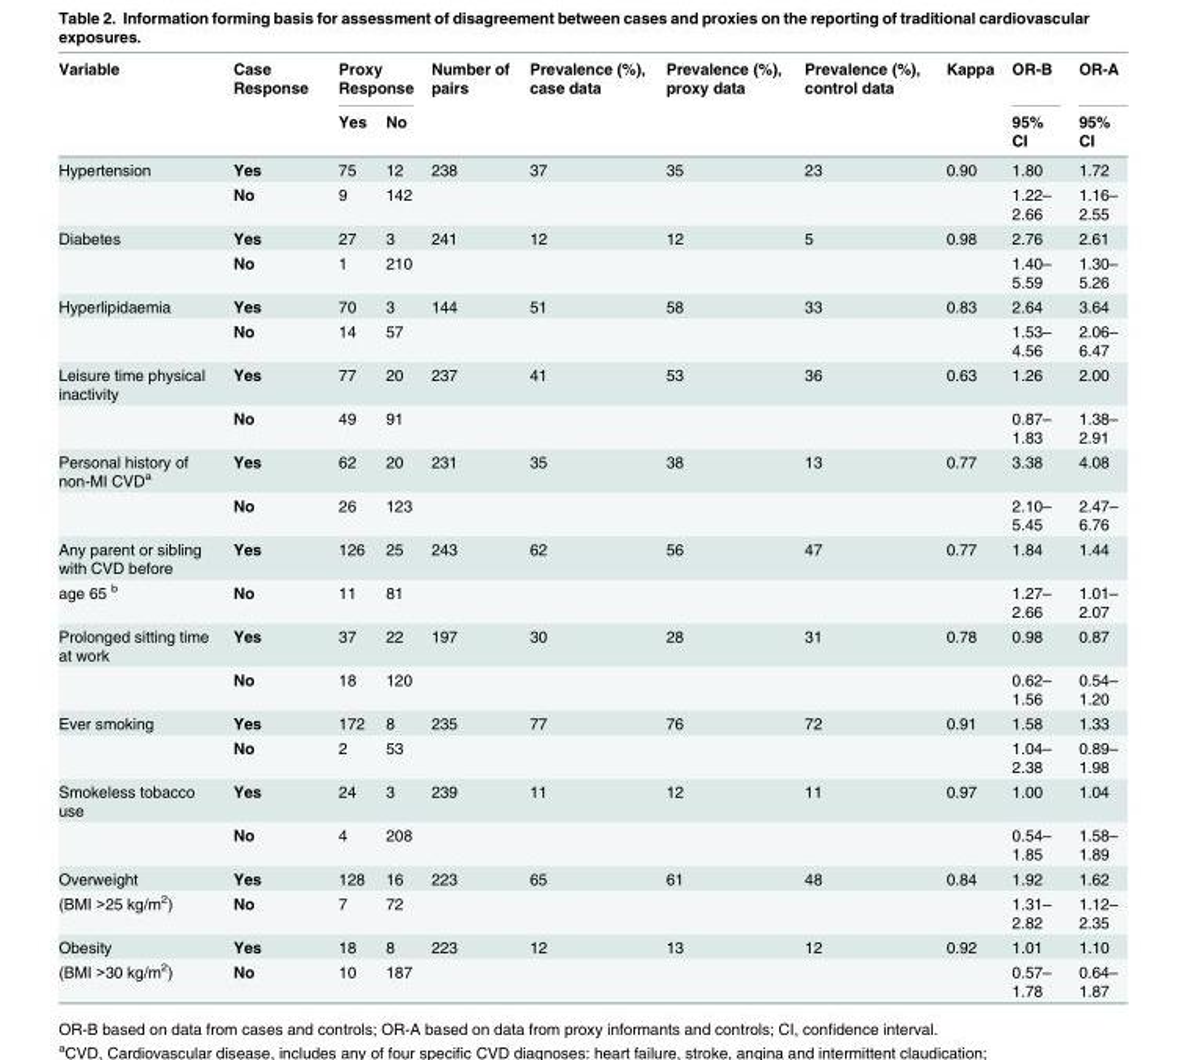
<table><thead><tr><td rowspan="2">Variable</td><td rowspan="2">Case Response</td><td colspan="2">Proxy Response</td><td rowspan="2">Number of pairs</td><td rowspan="2">Prevalence (%), case data</td><td rowspan="2">Prevalence (%), proxy data</td><td rowspan="2">Prevalence (%), control data</td><td rowspan="2">Kappa</td><td rowspan="2">OR-B 95% CI</td><td rowspan="2">OR-A 95% CI</td></tr><tr><td>Yes</td><td>No</td></tr></thead><tbody><tr><td rowspan="2">Hypertension</td><td>Yes</td><td>75</td><td>12</td><td>238</td><td>37</td><td>35</td><td>23</td><td>0.90</td><td>1.80</td><td>1.72</td></tr><tr><td>No</td><td>9</td><td>142</td><td></td><td></td><td></td><td></td><td></td><td>1.22– 2.66</td><td>1.16– 2.55</td></tr><tr><td rowspan="2">Diabetes</td><td>Yes</td><td>27</td><td>3</td><td>241</td><td>12</td><td>12</td><td>5</td><td>0.98</td><td>2.76</td><td>2.61</td></tr><tr><td>No</td><td>1</td><td>210</td><td></td><td></td><td></td><td></td><td></td><td>1.40– 5.59</td><td>1.30– 5.26</td></tr><tr><td rowspan="2">Hyperlipidaemia</td><td>Yes</td><td>70</td><td>3</td><td>144</td><td>51</td><td>58</td><td>33</td><td>0.83</td><td>2.64</td><td>3.64</td></tr><tr><td>No</td><td>14</td><td>57</td><td></td><td></td><td></td><td></td><td></td><td>1.53– 4.56</td><td>2.06– 6.47</td></tr><tr><td rowspan="2">Leisure time physical inactivity</td><td>Yes</td><td>77</td><td>20</td><td>237</td><td>41</td><td>53</td><td>36</td><td>0.63</td><td>1.26</td><td>2.00</td></tr><tr><td>No</td><td>49</td><td>91</td><td></td><td></td><td></td><td></td><td></td><td>0.87– 1.83</td><td>1.38– 2.91</td></tr><tr><td rowspan="2">Personal history of non-MI CVD<sup>a</sup></td><td>Yes</td><td>62</td><td>20</td><td>231</td><td>35</td><td>38</td><td>13</td><td>0.77</td><td>3.38</td><td>4.08</td></tr><tr><td>No</td><td>26</td><td>123</td><td></td><td></td><td></td><td></td><td></td><td>2.10– 5.45</td><td>2.47– 6.76</td></tr><tr><td>Any parent or sibling with CVD before</td><td>Yes</td><td>126</td><td>25</td><td>243</td><td>62</td><td>56</td><td>47</td><td>0.77</td><td>1.84</td><td>1.44</td></tr><tr><td>age 65 <sup>b</sup></td><td>No</td><td>11</td><td>81</td><td></td><td></td><td></td><td></td><td></td><td>1.27– 2.66</td><td>1.01– 2.07</td></tr><tr><td rowspan="2">Prolonged sitting time at work</td><td>Yes</td><td>37</td><td>22</td><td>197</td><td>30</td><td>28</td><td>31</td><td>0.78</td><td>0.98</td><td>0.87</td></tr><tr><td>No</td><td>18</td><td>120</td><td></td><td></td><td></td><td></td><td></td><td>0.62– 1.56</td><td>0.54– 1.20</td></tr><tr><td rowspan="2">Ever smoking</td><td>Yes</td><td>172</td><td>8</td><td>235</td><td>77</td><td>76</td><td>72</td><td>0.91</td><td>1.58</td><td>1.33</td></tr><tr><td>No</td><td>2</td><td>53</td><td></td><td></td><td></td><td></td><td></td><td>1.04– 2.38</td><td>0.89– 1.98</td></tr><tr><td rowspan="2">Smokeless tobacco use</td><td>Yes</td><td>24</td><td>3</td><td>239</td><td>11</td><td>12</td><td>11</td><td>0.97</td><td>1.00</td><td>1.04</td></tr><tr><td>No</td><td>4</td><td>208</td><td></td><td></td><td></td><td></td><td></td><td>0.54– 1.85</td><td>1.58– 1.89</td></tr><tr><td>Overweight</td><td>Yes</td><td>128</td><td>16</td><td>223</td><td>65</td><td>61</td><td>48</td><td>0.84</td><td>1.92</td><td>1.62</td></tr><tr><td>(BMI &gt;25 kg/m<sup>2</sup>)</td><td>No</td><td>7</td><td>72</td><td></td><td></td><td></td><td></td><td></td><td>1.31– 2.82</td><td>1.12– 2.35</td></tr><tr><td>Obesity</td><td>Yes</td><td>18</td><td>8</td><td>223</td><td>12</td><td>13</td><td>12</td><td>0.92</td><td>1.01</td><td>1.10</td></tr><tr><td>(BMI &gt;30 kg/m<sup>2</sup>)</td><td>No</td><td>10</td><td>187</td><td></td><td></td><td></td><td></td><td></td><td>0.57– 1.78</td><td>0.64– 1.87</td></tr></tbody></table>